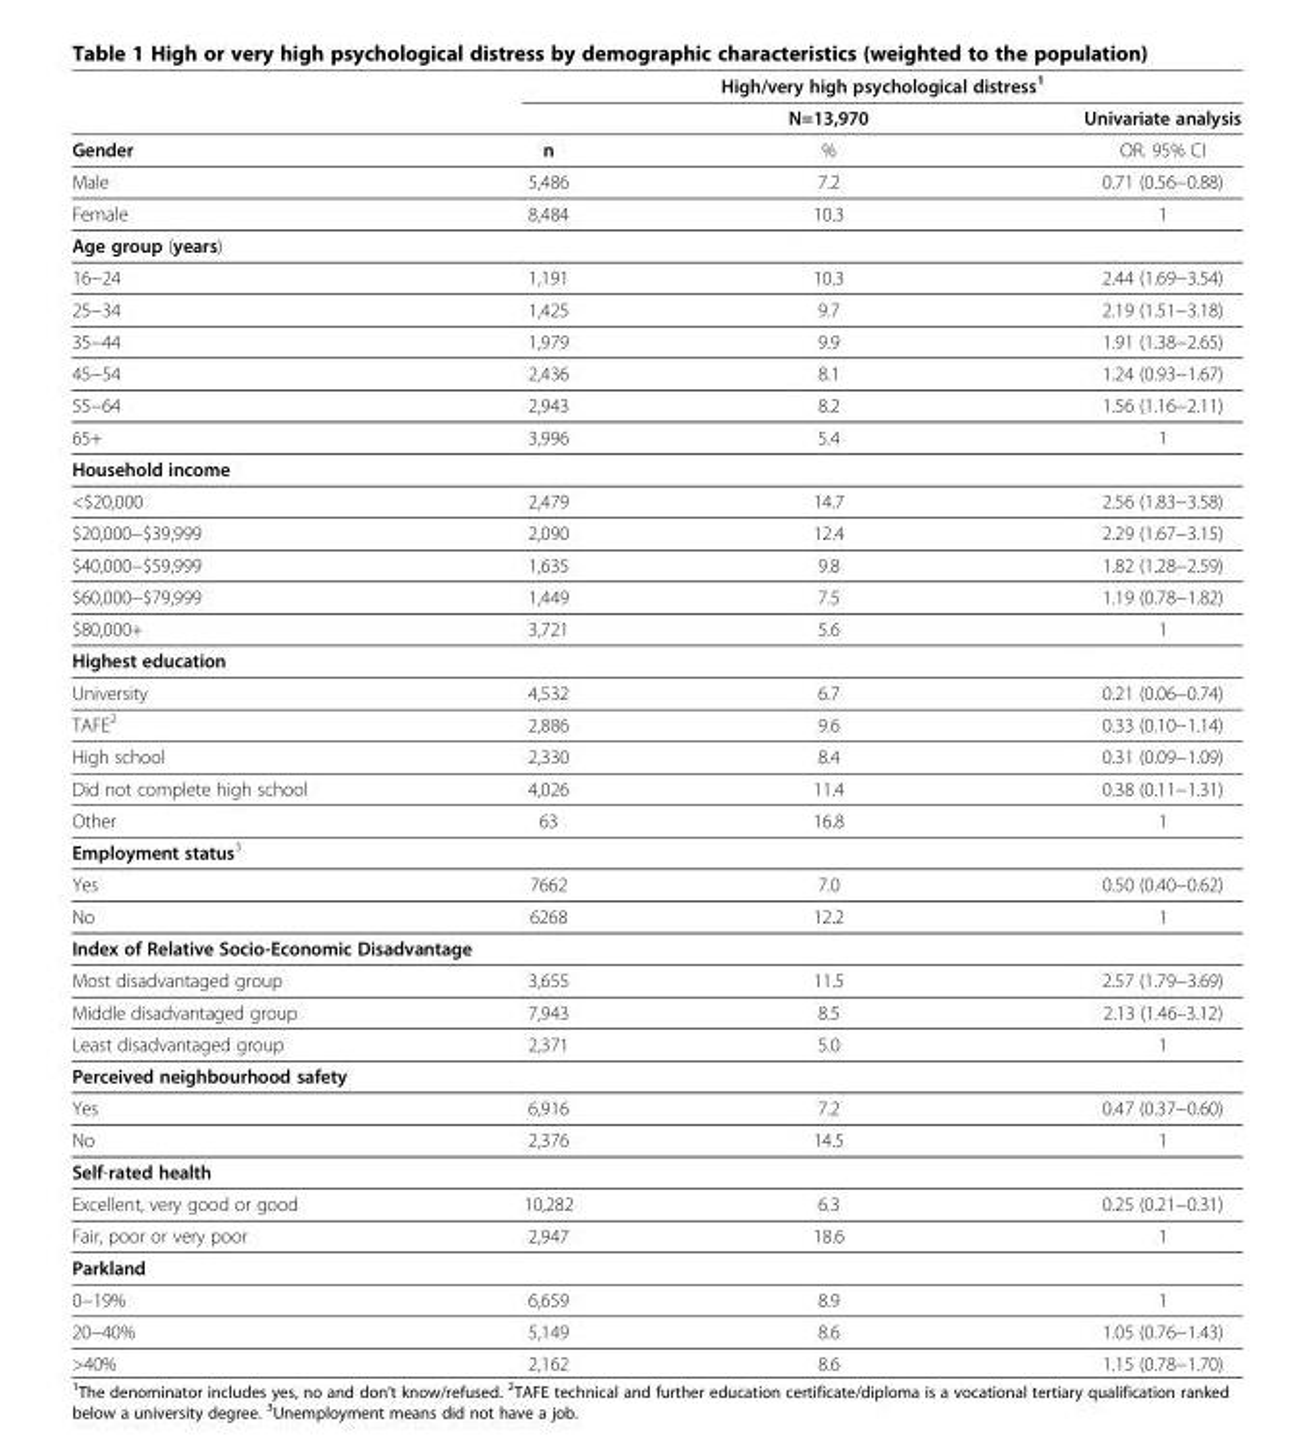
<table><thead><tr><td rowspan="2"></td><td colspan="3">High/very high psychological distress<sup>1</sup></td></tr><tr><td></td><td>N=13,970</td><td>Univariate analysis</td></tr></thead><tbody><tr><td>Gender</td><td>n</td><td>%</td><td>OR. 95% CI</td></tr><tr><td>Male</td><td>5,486</td><td>7.2</td><td>0.71 (0.56−0.88)</td></tr><tr><td>Female</td><td>8,484</td><td>10.3</td><td>1</td></tr><tr><td colspan="4">Age group (years)</td></tr><tr><td>16−24</td><td>1,191</td><td>10.3</td><td>2.44 (1.69−3.54)</td></tr><tr><td>25−34</td><td>1,425</td><td>9.7</td><td>2.19 (1.51−3.18)</td></tr><tr><td>35−44</td><td>1,979</td><td>9.9</td><td>1.91 (1.38−2.65)</td></tr><tr><td>45−54</td><td>2,436</td><td>8.1</td><td>1.24 (0.93−1.67)</td></tr><tr><td>55−64</td><td>2,943</td><td>8.2</td><td>1.56 (1.16−2.11)</td></tr><tr><td>65+</td><td>3,996</td><td>5.4</td><td>1</td></tr><tr><td colspan="4">Household income</td></tr><tr><td>&lt;$20,000</td><td>2,479</td><td>14.7</td><td>2.56 (1.83−3.58)</td></tr><tr><td>$20,000−$39,999</td><td>2,090</td><td>12.4</td><td>2.29 (1.67−3.15)</td></tr><tr><td>$40,000−$59,999</td><td>1,635</td><td>9.8</td><td>1.82 (1.28−2.59)</td></tr><tr><td>$60,000−$79,999</td><td>1,449</td><td>7.5</td><td>1.19 (0.78−1.82)</td></tr><tr><td>$80,000+</td><td>3,721</td><td>5.6</td><td>1</td></tr><tr><td colspan="4">Highest education</td></tr><tr><td>University</td><td>4,532</td><td>6.7</td><td>0.21 (0.06−0.74)</td></tr><tr><td>TAFE<sup>2</sup></td><td>2,886</td><td>9.6</td><td>0.33 (0.10−1.14)</td></tr><tr><td>High school</td><td>2,330</td><td>8.4</td><td>0.31 (0.09−1.09)</td></tr><tr><td>Did not complete high school</td><td>4,026</td><td>11.4</td><td>0.38 (0.11−1.31)</td></tr><tr><td>Other</td><td>63</td><td>16.8</td><td>1</td></tr><tr><td colspan="4">Employment status<sup>3</sup></td></tr><tr><td>Yes</td><td>7662</td><td>7.0</td><td>0.50 (0.40−0.62)</td></tr><tr><td>No</td><td>6268</td><td>12.2</td><td>1</td></tr><tr><td colspan="4">Index of Relative Socio-Economic Disadvantage</td></tr><tr><td>Most disadvantaged group</td><td>3,655</td><td>11.5</td><td>2.57 (1.79−3.69)</td></tr><tr><td>Middle disadvantaged group</td><td>7,943</td><td>8.5</td><td>2.13 (1.46–3.12)</td></tr><tr><td>Least disadvantaged group</td><td>2,371</td><td>5.0</td><td>1</td></tr><tr><td colspan="4">Perceived neighbourhood safety</td></tr><tr><td>Yes</td><td>6,916</td><td>7.2</td><td>0.47 (0.37−0.60)</td></tr><tr><td>No</td><td>2,376</td><td>14.5</td><td>1</td></tr><tr><td colspan="4">Self-rated health</td></tr><tr><td>Excellent, very good or good</td><td>10,282</td><td>6.3</td><td>0.25 (0.21−0.31)</td></tr><tr><td>Fair, poor or very poor</td><td>2,947</td><td>18.6</td><td>1</td></tr><tr><td colspan="4">Parkland</td></tr><tr><td>0−19%</td><td>6,659</td><td>8.9</td><td>1</td></tr><tr><td>20−40%</td><td>5,149</td><td>8.6</td><td>1.05 (0.76−1.43)</td></tr><tr><td>&gt;40%</td><td>2,162</td><td>8.6</td><td>1.15 (0.78−1.70)</td></tr></tbody></table>